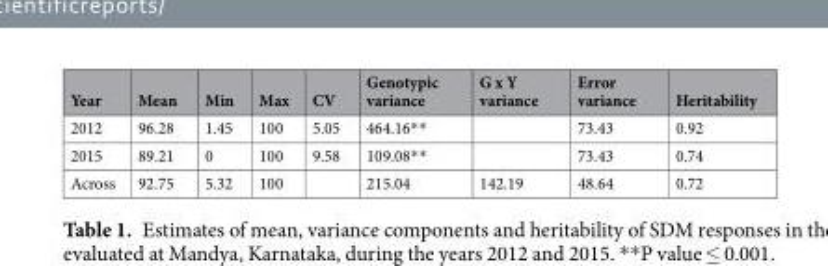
<table><thead><tr><td>Year</td><td>Mean</td><td>Min</td><td>Max</td><td>CV</td><td>Genotypic variance</td><td>G x Y variance</td><td>Error variance</td><td>Heritability</td></tr></thead><tbody><tr><td>2012</td><td>96.28</td><td>1.45</td><td>100</td><td>5.05</td><td>464.16**</td><td></td><td>73.43</td><td>0.92</td></tr><tr><td>2015</td><td>89.21</td><td>0</td><td>100</td><td>9.58</td><td>109.08**</td><td></td><td>73.43</td><td>0.74</td></tr><tr><td>Across</td><td>92.75</td><td>5.32</td><td>100</td><td></td><td>215.04</td><td>142.19</td><td>48.64</td><td>0.72</td></tr></tbody></table>